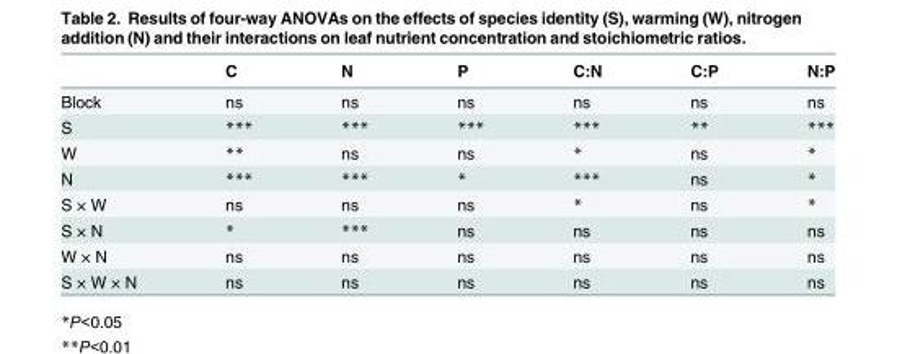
<table><thead><tr><td></td><td>C</td><td>N</td><td>P</td><td>C:N</td><td>C:P</td><td>N:P</td></tr></thead><tbody><tr><td>Block</td><td>ns</td><td>ns</td><td>ns</td><td>ns</td><td>ns</td><td>ns</td></tr><tr><td>S</td><td>***</td><td>***</td><td>***</td><td>***</td><td>**</td><td>***</td></tr><tr><td>W</td><td>**</td><td>ns</td><td>ns</td><td>*</td><td>ns</td><td>*</td></tr><tr><td>N</td><td>***</td><td>***</td><td>*</td><td>***</td><td>ns</td><td>*</td></tr><tr><td>S × W</td><td>ns</td><td>ns</td><td>ns</td><td>*</td><td>ns</td><td>*</td></tr><tr><td>S × N</td><td>*</td><td>***</td><td>ns</td><td>ns</td><td>ns</td><td>ns</td></tr><tr><td>W × N</td><td>ns</td><td>ns</td><td>ns</td><td>ns</td><td>ns</td><td>ns</td></tr><tr><td>S × W × N</td><td>ns</td><td>ns</td><td>ns</td><td>ns</td><td>ns</td><td>ns</td></tr></tbody></table>